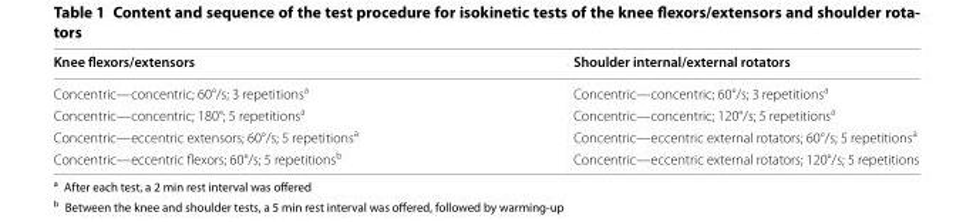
<table><thead><tr><td>Knee flexors/extensors</td><td>Shoulder internal/external rotators</td></tr></thead><tbody><tr><td>Concentric—concentric; 60°/s; 3 repetitions<sup>a</sup></td><td>Concentric—concentric; 60°/s; 3 repetitions<sup>a</sup></td></tr><tr><td>Concentric—concentric; 180°; 5 repetitions<sup>a</sup></td><td>Concentric—concentric; 120°/s; 5 repetitions<sup>a</sup></td></tr><tr><td>Concentric—eccentric extensors; 60°/s; 5 repetitions<sup>a</sup></td><td>Concentric—eccentric external rotators; 60°/s; 5 repetitions<sup>a</sup></td></tr><tr><td>Concentric—eccentric flexors; 60°/s; 5 repetitions<sup>b</sup></td><td>Concentric—eccentric external rotators; 120°/s; 5 repetitions</td></tr></tbody></table>